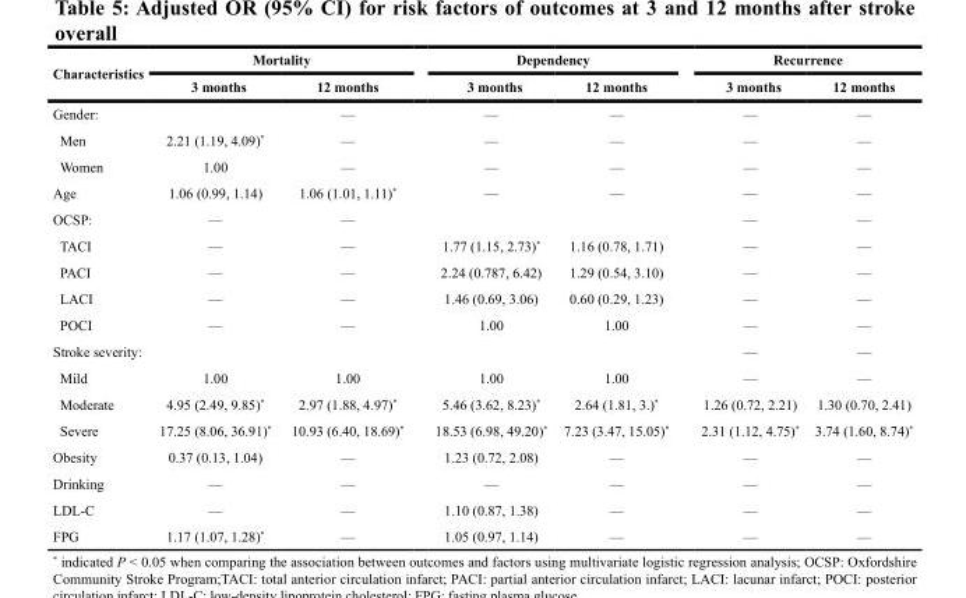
<table><thead><tr><td rowspan="2">Characteristics</td><td colspan="2">Mortality</td><td colspan="2">Dependency</td><td colspan="2">Recurrence</td></tr><tr><td>3 months</td><td>12 months</td><td>3 months</td><td>12 months</td><td>3 months</td><td>12 months</td></tr></thead><tbody><tr><td>Gender:</td><td></td><td>—</td><td>—</td><td>—</td><td>—</td><td>—</td></tr><tr><td>Men</td><td>2.21 (1.19, 4.09)*</td><td>—</td><td>—</td><td>—</td><td>—</td><td>—</td></tr><tr><td>Women</td><td>1.00</td><td>—</td><td>—</td><td>—</td><td>—</td><td>—</td></tr><tr><td>Age</td><td>1.06 (0.99, 1.14)</td><td>1.06 (1.01, 1.11)*</td><td>—</td><td>—</td><td>—</td><td>—</td></tr><tr><td>OCSP:</td><td>—</td><td>—</td><td></td><td></td><td>—</td><td>—</td></tr><tr><td>TACI</td><td>—</td><td>—</td><td>1.77 (1.15, 2.73)*</td><td>1.16 (0.78, 1.71)</td><td>—</td><td>—</td></tr><tr><td>PACI</td><td>—</td><td>—</td><td>2.24 (0.787, 6.42)</td><td>1.29 (0.54, 3.10)</td><td>—</td><td>—</td></tr><tr><td>LACI</td><td>—</td><td>—</td><td>1.46 (0.69, 3.06)</td><td>0.60 (0.29, 1.23)</td><td>—</td><td>—</td></tr><tr><td>POCI</td><td>—</td><td>—</td><td>1.00</td><td>1.00</td><td>—</td><td>—</td></tr><tr><td>Stroke severity:</td><td></td><td></td><td></td><td></td><td>—</td><td>—</td></tr><tr><td>Mild</td><td>1.00</td><td>1.00</td><td>1.00</td><td>1.00</td><td>—</td><td>—</td></tr><tr><td>Moderate</td><td>4.95 (2.49, 9.85)*</td><td>2.97 (1.88, 4.97)*</td><td>5.46 (3.62, 8.23)*</td><td>2.64 (1.81, 3.)*</td><td>1.26 (0.72, 2.21)</td><td>1.30 (0.70, 2.41)</td></tr><tr><td>Severe</td><td>17.25 (8.06, 36.91)*</td><td>10.93 (6.40, 18.69)*</td><td>18.53 (6.98, 49.20)*</td><td>7.23 (3.47, 15.05)*</td><td>2.31 (1.12, 4.75)*</td><td>3.74 (1.60, 8.74)*</td></tr><tr><td>Obesity</td><td>0.37 (0.13, 1.04)</td><td>—</td><td>1.23 (0.72, 2.08)</td><td>—</td><td>—</td><td>—</td></tr><tr><td>Drinking</td><td>—</td><td>—</td><td>—</td><td>—</td><td>—</td><td>—</td></tr><tr><td>LDL-C</td><td>—</td><td>—</td><td>1.10 (0.87, 1.38)</td><td>—</td><td>—</td><td>—</td></tr><tr><td>FPG</td><td>1.17 (1.07, 1.28)*</td><td>—</td><td>1.05 (0.97, 1.14)</td><td>—</td><td>—</td><td>—</td></tr></tbody></table>